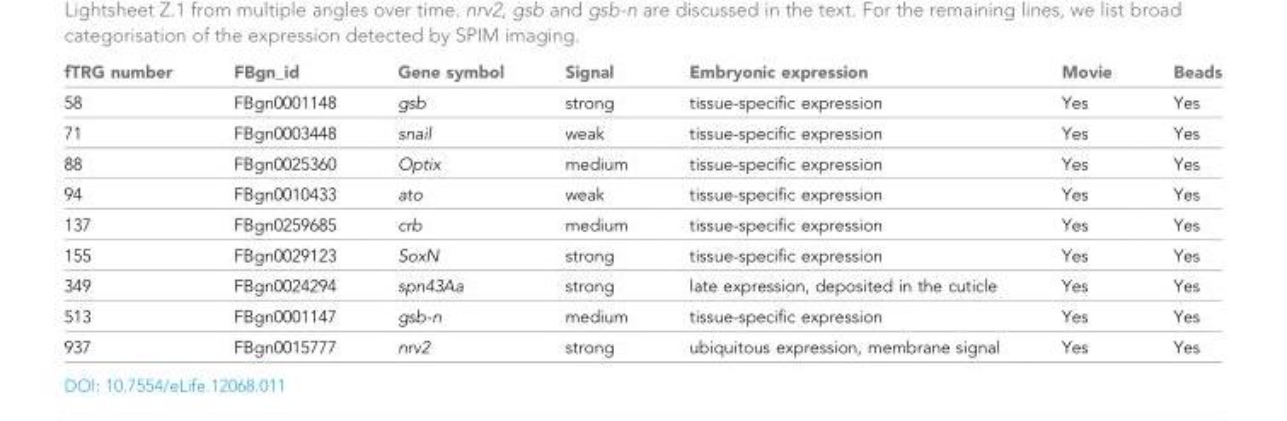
<table><thead><tr><td>fTRG number</td><td>FBgn_id</td><td>Gene symbol</td><td>Signal</td><td>Embryonic expression</td><td>Movie</td><td>Beads</td></tr></thead><tbody><tr><td>58</td><td>FBgn0001148</td><td>gsb</td><td>strong</td><td>tissue-specific expression</td><td>Yes</td><td>Yes</td></tr><tr><td>71</td><td>FBgn0003448</td><td>snail</td><td>weak</td><td>tissue-specific expression</td><td>Yes</td><td>Yes</td></tr><tr><td>88</td><td>FBgn0025360</td><td>Optix</td><td>medium</td><td>tissue-specific expression</td><td>Yes</td><td>Yes</td></tr><tr><td>94</td><td>FBgn0010433</td><td>ato</td><td>weak</td><td>tissue-specific expression</td><td>Yes</td><td>Yes</td></tr><tr><td>137</td><td>FBgn0259685</td><td>crb</td><td>medium</td><td>tissue-specific expression</td><td>Yes</td><td>Yes</td></tr><tr><td>155</td><td>FBgn0029123</td><td>SoxN</td><td>strong</td><td>tissue-specific expression</td><td>Yes</td><td>Yes</td></tr><tr><td>349</td><td>FBgn0024294</td><td>spn43Aa</td><td>strong</td><td>late expression, deposited in the cuticle</td><td>Yes</td><td>Yes</td></tr><tr><td>513</td><td>FBgn0001147</td><td>gsb-n</td><td>medium</td><td>tissue-specific expression</td><td>Yes</td><td>Yes</td></tr><tr><td>937</td><td>FBgn0015777</td><td>nrv2</td><td>strong</td><td>ubiquitous expression, membrane signal</td><td>Yes</td><td>Yes</td></tr></tbody></table>